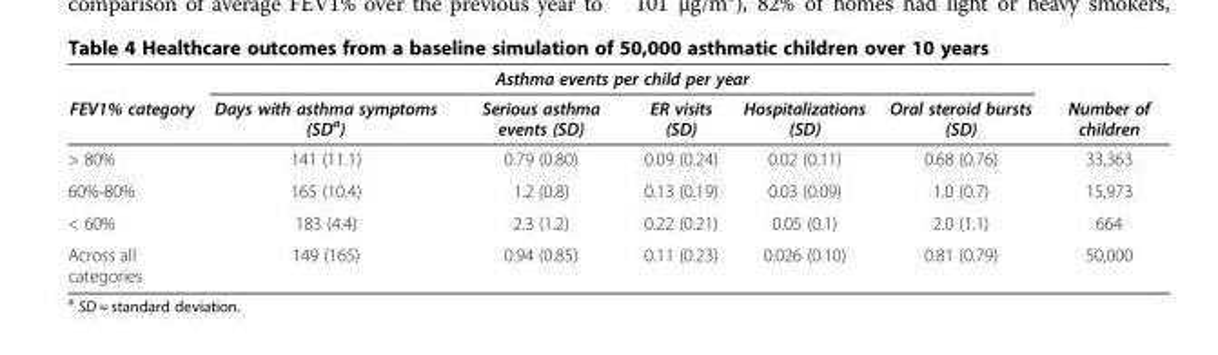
<table><thead><tr><td rowspan="2">FEV1% category</td><td colspan="5">Asthma events per child per year</td><td rowspan="2">Number of children</td></tr><tr><td>Days with asthma symptoms (SD<sup>a</sup>)</td><td>Serious asthma events (SD)</td><td>ER visits (SD)</td><td>Hospitalizations (SD)</td><td>Oral steroid bursts (SD)</td></tr></thead><tbody><tr><td>&gt; 80%</td><td>141 (11.1)</td><td>0.79 (0.80)</td><td>0.09 (0.24)</td><td>0.02 (0.11)</td><td>0.68 (0.76)</td><td>33,363</td></tr><tr><td>60%-80%</td><td>165 (10.4)</td><td>1.2 (0.8)</td><td>0.13 (0.19)</td><td>0.03 (0.09)</td><td>1.0 (0.7)</td><td>15,973</td></tr><tr><td>&lt; 60%</td><td>183 (4.4)</td><td>2.3 (1.2)</td><td>0.22 (0.21)</td><td>0.05 (0.1)</td><td>2.0 (1.1)</td><td>664</td></tr><tr><td>Across all categories</td><td>149 (165)</td><td>0.94 (0.85)</td><td>0.11 (0.23)</td><td>0.026 (0.10)</td><td>0.81 (0.79)</td><td>50,000</td></tr></tbody></table>